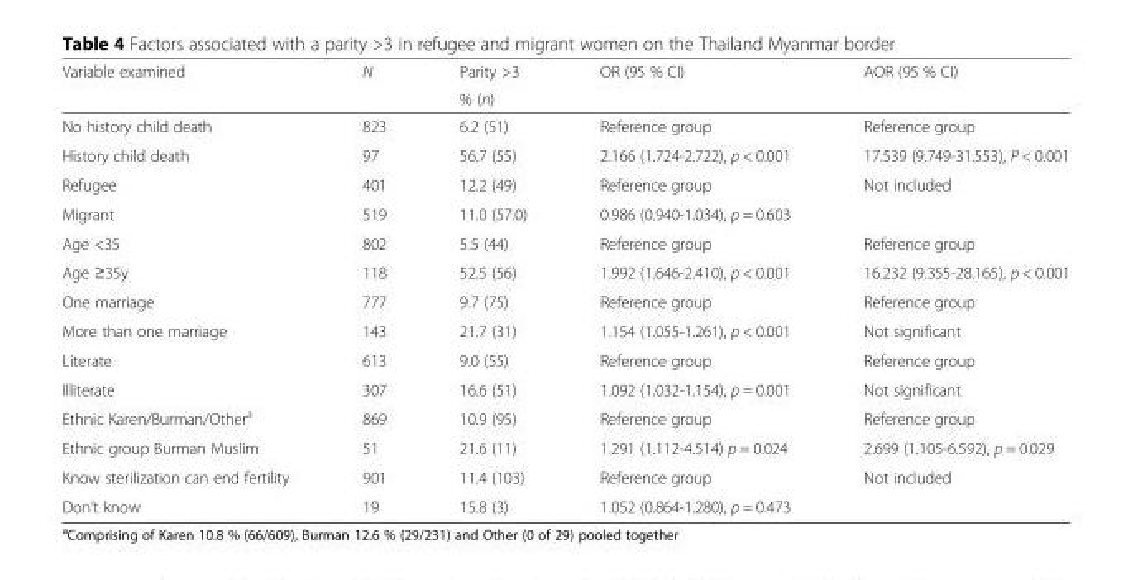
<table><thead><tr><td rowspan="2">Variable examined</td><td rowspan="2">N</td><td rowspan="2">Parity &gt;3 % (n)</td><td rowspan="2">OR (95 % CI)</td><td rowspan="2">AOR (95 % CI)</td></tr><tr></tr></thead><tbody><tr><td>No history child death</td><td>823</td><td>6.2 (51)</td><td>Reference group</td><td>Reference group</td></tr><tr><td>History child death</td><td>97</td><td>56.7 (55)</td><td>2.166 (1.724-2.722), p &lt; 0.001</td><td>17.539 (9.749-31.553), P &lt; 0.001</td></tr><tr><td>Refugee</td><td>401</td><td>12.2 (49)</td><td>Reference group</td><td>Not included</td></tr><tr><td>Migrant</td><td>519</td><td>11.0 (57.0)</td><td>0.986 (0.940-1.034), p = 0.603</td><td></td></tr><tr><td>Age &lt;35</td><td>802</td><td>5.5 (44)</td><td>Reference group</td><td>Reference group</td></tr><tr><td>Age ≥35y</td><td>118</td><td>52.5 (56)</td><td>1.992 (1.646-2.410), p &lt; 0.001</td><td>16.232 (9.355-28.165), p &lt; 0.001</td></tr><tr><td>One marriage</td><td>777</td><td>9.7 (75)</td><td>Reference group</td><td>Reference group</td></tr><tr><td>More than one marriage</td><td>143</td><td>21.7 (31)</td><td>1.154 (1.055-1.261), p &lt; 0.001</td><td>Not significant</td></tr><tr><td>Literate</td><td>613</td><td>9.0 (55)</td><td>Reference group</td><td>Reference group</td></tr><tr><td>Illiterate</td><td>307</td><td>16.6 (51)</td><td>1.092 (1.032-1.154), p = 0.001</td><td>Not significant</td></tr><tr><td>Ethnic Karen/Burman/Other<sup>a</sup></td><td>869</td><td>10.9 (95)</td><td>Reference group</td><td>Reference group</td></tr><tr><td>Ethnic group Burman Muslim</td><td>51</td><td>21.6 (11)</td><td>1.291 (1.112-4.514) p = 0.024</td><td>2.699 (1.105-6.592), p = 0.029</td></tr><tr><td>Know sterilization can end fertility</td><td>901</td><td>11.4 (103)</td><td>Reference group</td><td>Not included</td></tr><tr><td>Don’t know</td><td>19</td><td>15.8 (3)</td><td>1.052 (0.864-1.280), p = 0.473</td><td></td></tr></tbody></table>